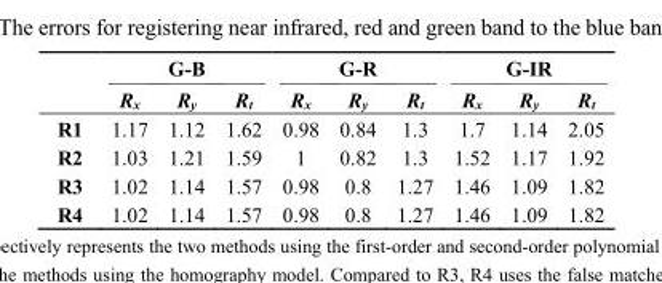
<table><thead><tr><td rowspan="2"></td><td colspan="3">G-B</td><td colspan="3">G-R</td><td colspan="3">G-IR</td></tr><tr><td>R<sub>x</sub></td><td>R<sub>y</sub></td><td>R<sub>t</sub></td><td>R<sub>x</sub></td><td>R<sub>y</sub></td><td>R<sub>t</sub></td><td>R<sub>x</sub></td><td>R<sub>y</sub></td><td>R<sub>t</sub></td></tr></thead><tbody><tr><td>R1</td><td>1.17</td><td>1.12</td><td>1.62</td><td>0.98</td><td>0.84</td><td>1.3</td><td>1.7</td><td>1.14</td><td>2.05</td></tr><tr><td>R2</td><td>1.03</td><td>1.21</td><td>1.59</td><td>1</td><td>0.82</td><td>1.3</td><td>1.52</td><td>1.17</td><td>1.92</td></tr><tr><td>R3</td><td>1.02</td><td>1.14</td><td>1.57</td><td>0.98</td><td>0.8</td><td>1.27</td><td>1.46</td><td>1.09</td><td>1.82</td></tr><tr><td>R4</td><td>1.02</td><td>1.14</td><td>1.57</td><td>0.98</td><td>0.8</td><td>1.27</td><td>1.46</td><td>1.09</td><td>1.82</td></tr></tbody></table>